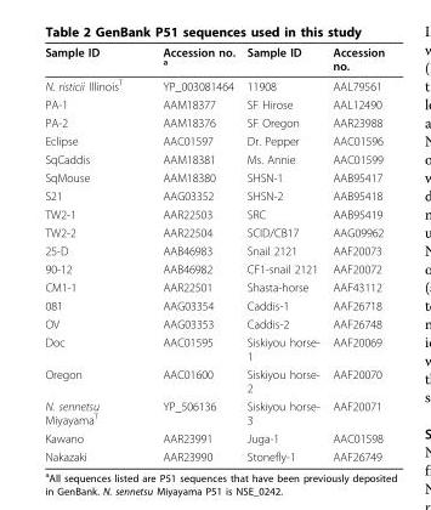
<table><thead><tr><td>Sample ID</td><td>Accession no. <sup>a</sup></td><td>Sample ID</td><td>Accession no.</td></tr></thead><tbody><tr><td>N. risticii Illinois<sup>T</sup></td><td>YP_003081464</td><td>11908</td><td>AAL79561</td></tr><tr><td>PA-1</td><td>AAM18377</td><td>SF Hirose</td><td>AAL12490</td></tr><tr><td>PA-2</td><td>AAM18376</td><td>SF Oregon</td><td>AAR23988</td></tr><tr><td>Eclipse</td><td>AAC01597</td><td>Dr. Pepper</td><td>AAC01596</td></tr><tr><td>SqCaddis</td><td>AAM18381</td><td>Ms. Annie</td><td>AAC01599</td></tr><tr><td>SqMouse</td><td>AAM18380</td><td>SHSN-1</td><td>AAB95417</td></tr><tr><td>S21</td><td>AAG03352</td><td>SHSN-2</td><td>AAB95418</td></tr><tr><td>TW2-1</td><td>AAR22503</td><td>SRC</td><td>AAB95419</td></tr><tr><td>TW2-2</td><td>AAR22504</td><td>SCID/CB17</td><td>AAG09962</td></tr><tr><td>25-D</td><td>AAB46983</td><td>Snail 2121</td><td>AAF20073</td></tr><tr><td>90-12</td><td>AAB46982</td><td>CF1-snail 2121</td><td>AAF20072</td></tr><tr><td>CM1-1</td><td>AAR22501</td><td>Shasta-horse</td><td>AAF43112</td></tr><tr><td>081</td><td>AAG03354</td><td>Caddis-1</td><td>AAF26718</td></tr><tr><td>OV</td><td>AAG03353</td><td>Caddis-2</td><td>AAF26748</td></tr><tr><td>Doc</td><td>AAC01595</td><td>Siskiyou horse- 1</td><td>AAF20069</td></tr><tr><td>Oregon</td><td>AAC01600</td><td>Siskiyou horse- 2</td><td>AAF20070</td></tr><tr><td>N. sennetsu Miyayama<sup>T</sup></td><td>YP_506136</td><td>Siskiyou horse- 3</td><td>AAF20071</td></tr><tr><td>Kawano</td><td>AAR23991</td><td>Juga-1</td><td>AAC01598</td></tr><tr><td>Nakazaki</td><td>AAR23990</td><td>Stonefly-1</td><td>AAF26749</td></tr></tbody></table>